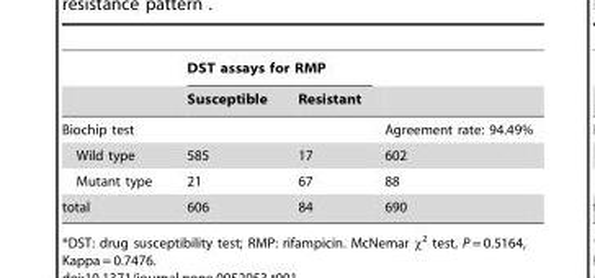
<table><thead><tr><td rowspan="2"></td><td colspan="2">DST assays for RMP</td><td rowspan="2"></td></tr><tr><td>Susceptible</td><td>Resistant</td></tr></thead><tbody><tr><td colspan="3">Biochip test</td><td>Agreement rate: 94.49%</td></tr><tr><td>Wild type</td><td>585</td><td>17</td><td>602</td></tr><tr><td>Mutant type</td><td>21</td><td>67</td><td>88</td></tr><tr><td>total</td><td>606</td><td>84</td><td>690</td></tr></tbody></table>